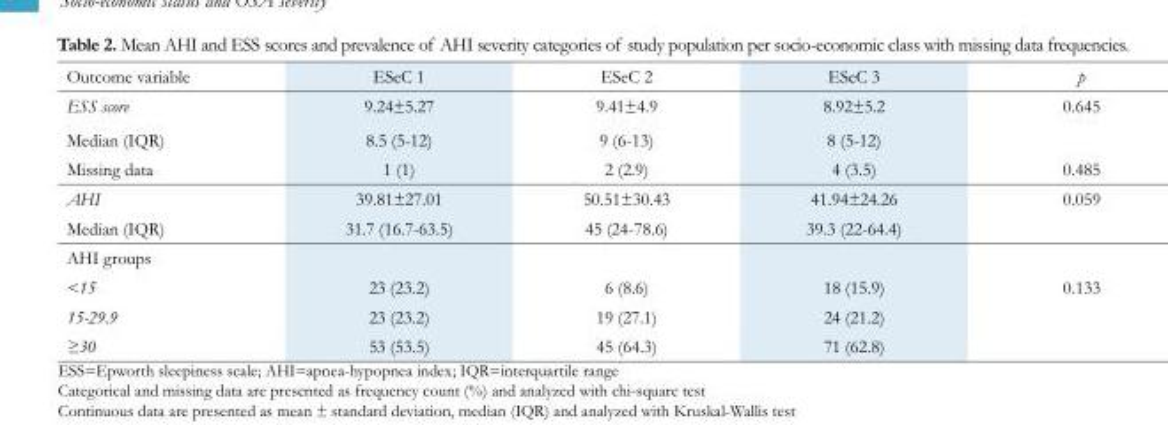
<table><thead><tr><td>Outcome variable</td><td>ESeC 1</td><td>ESeC 2</td><td>ESeC 3</td><td>p</td></tr></thead><tbody><tr><td>ESS score</td><td>9.24±5.27</td><td>9.41±4.9</td><td>8.92±5.2</td><td>0.645</td></tr><tr><td>Median (IQR)</td><td>8.5 (5-12)</td><td>9 (6-13)</td><td>8 (5-12)</td><td></td></tr><tr><td>Missing data</td><td>1 (1)</td><td>2 (2.9)</td><td>4 (3.5)</td><td>0.485</td></tr><tr><td>AHI</td><td>39.81±27.01</td><td>50.51±30.43</td><td>41.94±24.26</td><td>0.059</td></tr><tr><td>Median (IQR)</td><td>31.7 (16.7-63.5)</td><td>45 (24-78.6)</td><td>39.3 (22-64.4)</td><td></td></tr><tr><td colspan="5">AHI groups</td></tr><tr><td>&lt;15</td><td>23 (23.2)</td><td>6 (8.6)</td><td>18 (15.9)</td><td>0.133</td></tr><tr><td>15-29.9</td><td>23 (23.2)</td><td>19 (27.1)</td><td>24 (21.2)</td><td></td></tr><tr><td>≥30</td><td>53 (53.5)</td><td>45 (64.3)</td><td>71 (62.8)</td><td></td></tr></tbody></table>